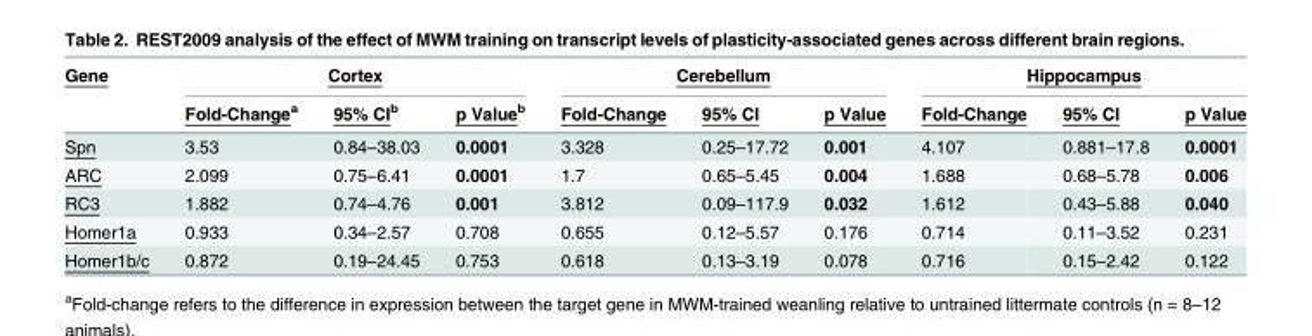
<table><thead><tr><td rowspan="2">Gene</td><td colspan="3">Cortex</td><td colspan="3">Cerebellum</td><td colspan="3">Hippocampus</td></tr><tr><td>Fold-Change<sup>a</sup></td><td>95% CI<sup>b</sup></td><td>p Value<sup>b</sup></td><td>Fold-Change</td><td>95% CI</td><td>p Value</td><td>Fold-Change</td><td>95% CI</td><td>p Value</td></tr></thead><tbody><tr><td>Spn</td><td>3.53</td><td>0.84–38.03</td><td>0.0001</td><td>3.328</td><td>0.25–17.72</td><td>0.001</td><td>4.107</td><td>0.881–17.8</td><td>0.0001</td></tr><tr><td>ARC</td><td>2.099</td><td>0.75–6.41</td><td>0.0001</td><td>1.7</td><td>0.65–5.45</td><td>0.004</td><td>1.688</td><td>0.68–5.78</td><td>0.006</td></tr><tr><td>RC3</td><td>1.882</td><td>0.74–4.76</td><td>0.001</td><td>3.812</td><td>0.09–117.9</td><td>0.032</td><td>1.612</td><td>0.43–5.88</td><td>0.040</td></tr><tr><td>Homer1a</td><td>0.933</td><td>0.34–2.57</td><td>0.708</td><td>0.655</td><td>0.12–5.57</td><td>0.176</td><td>0.714</td><td>0.11–3.52</td><td>0.231</td></tr><tr><td>Homer1b/c</td><td>0.872</td><td>0.19–24.45</td><td>0.753</td><td>0.618</td><td>0.13–3.19</td><td>0.078</td><td>0.716</td><td>0.15–2.42</td><td>0.122</td></tr></tbody></table>